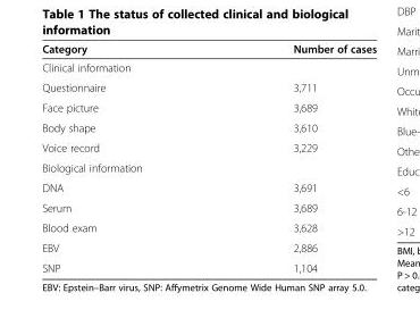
<table><thead><tr><td>Category</td><td>Number of cases</td></tr></thead><tbody><tr><td colspan="2">Clinical information</td></tr><tr><td>Questionnaire</td><td>3,711</td></tr><tr><td>Face picture</td><td>3,689</td></tr><tr><td>Body shape</td><td>3,610</td></tr><tr><td>Voice record</td><td>3,229</td></tr><tr><td colspan="2">Biological information</td></tr><tr><td>DNA</td><td>3,691</td></tr><tr><td>Serum</td><td>3,689</td></tr><tr><td>Blood exam</td><td>3,628</td></tr><tr><td>EBV</td><td>2,886</td></tr><tr><td>SNP</td><td>1,104</td></tr></tbody></table>